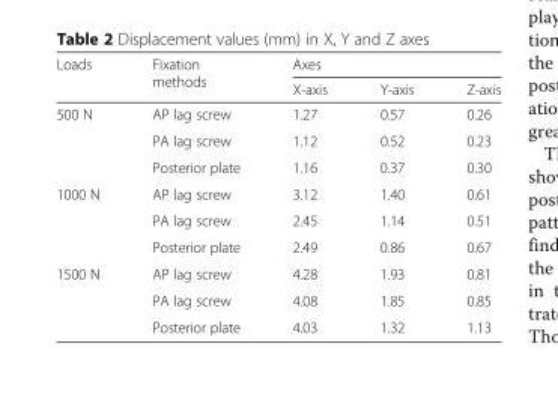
<table><thead><tr><td rowspan="2">Loads</td><td rowspan="2">Fixation methods</td><td colspan="3">Axes</td></tr><tr><td>X-axis</td><td>Y-axis</td><td>Z-axis</td></tr></thead><tbody><tr><td rowspan="3">500 N</td><td>AP lag screw</td><td>1.27</td><td>0.57</td><td>0.26</td></tr><tr><td>PA lag screw</td><td>1.12</td><td>0.52</td><td>0.23</td></tr><tr><td>Posterior plate</td><td>1.16</td><td>0.37</td><td>0.30</td></tr><tr><td rowspan="3">1000 N</td><td>AP lag screw</td><td>3.12</td><td>1.40</td><td>0.61</td></tr><tr><td>PA lag screw</td><td>2.45</td><td>1.14</td><td>0.51</td></tr><tr><td>Posterior plate</td><td>2.49</td><td>0.86</td><td>0.67</td></tr><tr><td rowspan="3">1500 N</td><td>AP lag screw</td><td>4.28</td><td>1.93</td><td>0.81</td></tr><tr><td>PA lag screw</td><td>4.08</td><td>1.85</td><td>0.85</td></tr><tr><td>Posterior plate</td><td>4.03</td><td>1.32</td><td>1.13</td></tr></tbody></table>